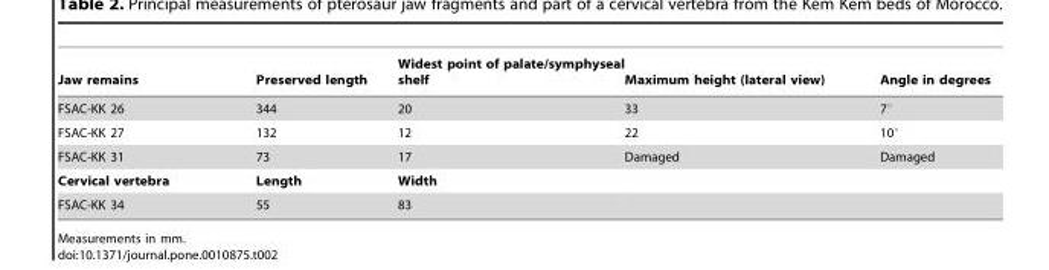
<table><thead><tr><td>Jaw remains</td><td>Preserved length</td><td>Widest point of palate/symphyseal shelf</td><td>Maximum height (lateral view)</td><td>Angle in degrees</td></tr></thead><tbody><tr><td>FSAC-KK 26</td><td>344</td><td>20</td><td>33</td><td>7°</td></tr><tr><td>FSAC-KK 27</td><td>132</td><td>12</td><td>22</td><td>10°</td></tr><tr><td>FSAC-KK 31</td><td>73</td><td>17</td><td>Damaged</td><td>Damaged</td></tr><tr><td>Cervical vertebra</td><td>Length</td><td>Width</td><td colspan="2"></td></tr><tr><td>FSAC-KK 34</td><td>55</td><td>83</td><td colspan="2"></td></tr></tbody></table>